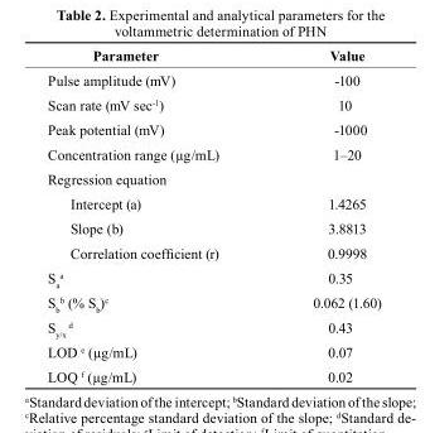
<table><thead><tr><td>Parameter</td><td>Value</td></tr></thead><tbody><tr><td>Pulse amplitude (mV)</td><td>-100</td></tr><tr><td>Scan rate (mV sec<sup>-1</sup>)</td><td>10</td></tr><tr><td>Peak potential (mV)</td><td>-1000</td></tr><tr><td>Concentration range (µg/mL)</td><td>1–20</td></tr><tr><td colspan="2">Regression equation</td></tr><tr><td>Intercept (a)</td><td>1.4265</td></tr><tr><td>Slope (b)</td><td>3.8813</td></tr><tr><td>Correlation coefficient (r)</td><td>0.9998</td></tr><tr><td>S<sub>a</sub> a</td><td>0.35</td></tr><tr><td>S<sub>b</sub> b (% S<sub>b</sub>)<sup>c</sup></td><td>0.062 (1.60)</td></tr><tr><td>S<sub>y/x</sub> d</td><td>0.43</td></tr><tr><td>LOD <sup>e</sup> (µg/mL)</td><td>0.07</td></tr><tr><td>LOQ <sup>f</sup> (µg/mL)</td><td>0.02</td></tr></tbody></table>